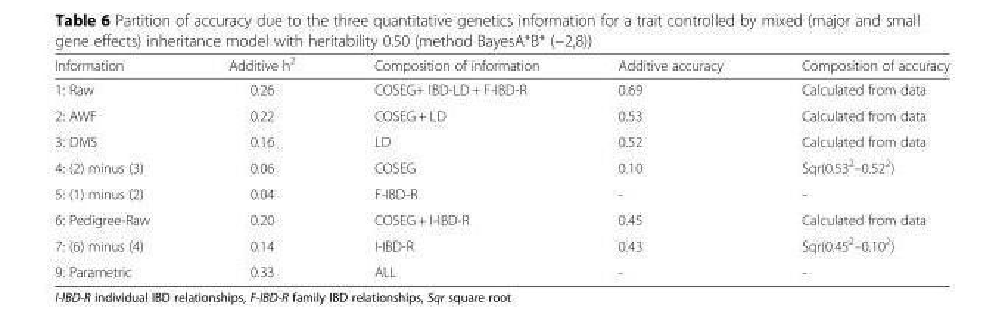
<table><thead><tr><td>Information</td><td>Additive h<sup>2</sup></td><td>Composition of information</td><td>Additive accuracy</td><td>Composition of accuracy</td></tr></thead><tbody><tr><td>1: Raw</td><td>0.26</td><td>COSEG+ IBD-LD + F-IBD-R</td><td>0.69</td><td>Calculated from data</td></tr><tr><td>2: AWF</td><td>0.22</td><td>COSEG + LD</td><td>0.53</td><td>Calculated from data</td></tr><tr><td>3: DMS</td><td>0.16</td><td>LD</td><td>0.52</td><td>Calculated from data</td></tr><tr><td>4: (2) minus (3)</td><td>0.06</td><td>COSEG</td><td>0.10</td><td>Sqr(0.53<sup>2</sup>–0.52<sup>2</sup>)</td></tr><tr><td>5: (1) minus (2)</td><td>0.04</td><td>F-IBD-R</td><td>-</td><td>-</td></tr><tr><td>6: Pedigree-Raw</td><td>0.20</td><td>COSEG + I-IBD-R</td><td>0.45</td><td>Calculated from data</td></tr><tr><td>7: (6) minus (4)</td><td>0.14</td><td>I-IBD-R</td><td>0.43</td><td>Sqr(0.45<sup>2</sup>–0.10<sup>2</sup>)</td></tr><tr><td>9: Parametric</td><td>0.33</td><td>ALL</td><td>-</td><td>-</td></tr></tbody></table>